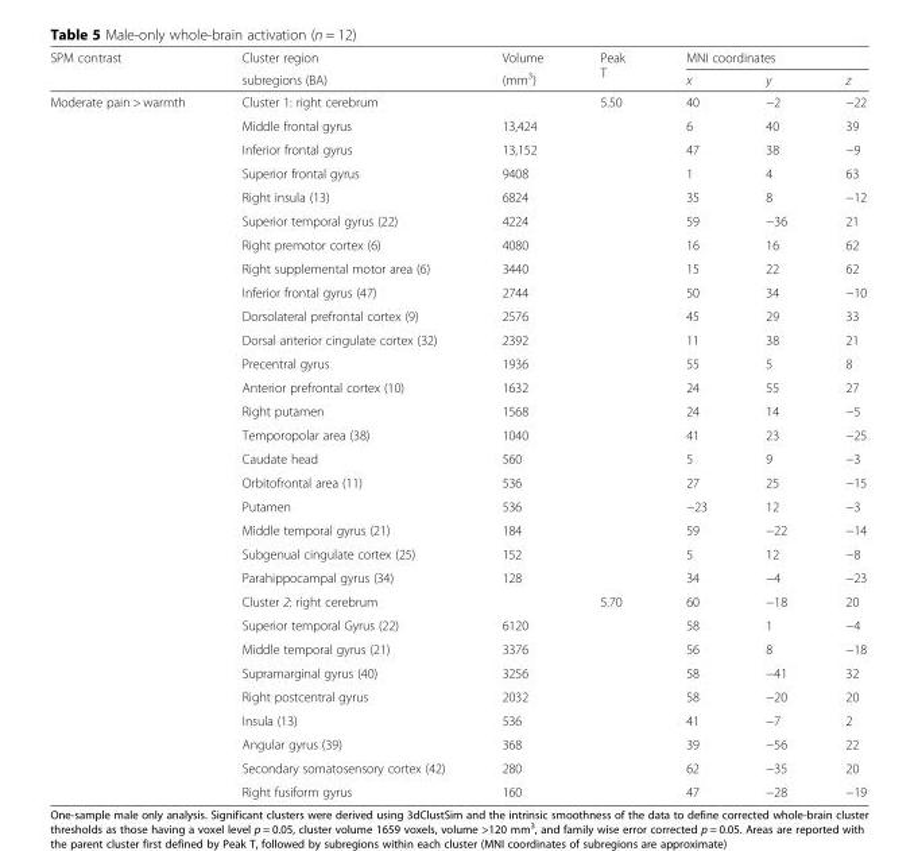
<table><thead><tr><td rowspan="2">SPM contrast</td><td rowspan="2">Cluster region subregions (BA)</td><td rowspan="2">Volume (mm<sup>3</sup>)</td><td rowspan="2">Peak T</td><td colspan="3">MNI coordinates</td></tr><tr><td>x</td><td>y</td><td>z</td></tr></thead><tbody><tr><td rowspan="30">Moderate pain &gt; warmth</td><td>Cluster 1: right cerebrum</td><td></td><td>5.50</td><td>40</td><td>−2</td><td>−22</td></tr><tr><td>Middle frontal gyrus</td><td>13,424</td><td></td><td>6</td><td>40</td><td>39</td></tr><tr><td>Inferior frontal gyrus</td><td>13,152</td><td></td><td>47</td><td>38</td><td>−9</td></tr><tr><td>Superior frontal gyrus</td><td>9408</td><td></td><td>1</td><td>4</td><td>63</td></tr><tr><td>Right insula (13)</td><td>6824</td><td></td><td>35</td><td>8</td><td>−12</td></tr><tr><td>Superior temporal gyrus (22)</td><td>4224</td><td></td><td>59</td><td>−36</td><td>21</td></tr><tr><td>Right premotor cortex (6)</td><td>4080</td><td></td><td>16</td><td>16</td><td>62</td></tr><tr><td>Right supplemental motor area (6)</td><td>3440</td><td></td><td>15</td><td>22</td><td>62</td></tr><tr><td>Inferior frontal gyrus (47)</td><td>2744</td><td></td><td>50</td><td>34</td><td>−10</td></tr><tr><td>Dorsolateral prefrontal cortex (9)</td><td>2576</td><td></td><td>45</td><td>29</td><td>33</td></tr><tr><td>Dorsal anterior cingulate cortex (32)</td><td>2392</td><td></td><td>11</td><td>38</td><td>21</td></tr><tr><td>Precentral gyrus</td><td>1936</td><td></td><td>55</td><td>5</td><td>8</td></tr><tr><td>Anterior prefrontal cortex (10)</td><td>1632</td><td></td><td>24</td><td>55</td><td>27</td></tr><tr><td>Right putamen</td><td>1568</td><td></td><td>24</td><td>14</td><td>−5</td></tr><tr><td>Temporopolar area (38)</td><td>1040</td><td></td><td>41</td><td>23</td><td>−25</td></tr><tr><td>Caudate head</td><td>560</td><td></td><td>5</td><td>9</td><td>−3</td></tr><tr><td>Orbitofrontal area (11)</td><td>536</td><td></td><td>27</td><td>25</td><td>−15</td></tr><tr><td>Putamen</td><td>536</td><td></td><td>−23</td><td>12</td><td>−3</td></tr><tr><td>Middle temporal gyrus (21)</td><td>184</td><td></td><td>59</td><td>−22</td><td>−14</td></tr><tr><td>Subgenual cingulate cortex (25)</td><td>152</td><td></td><td>5</td><td>12</td><td>−8</td></tr><tr><td>Parahippocampal gyrus (34)</td><td>128</td><td></td><td>34</td><td>−4</td><td>−23</td></tr><tr><td>Cluster 2: right cerebrum</td><td></td><td>5.70</td><td>60</td><td>−18</td><td>20</td></tr><tr><td>Superior temporal Gyrus (22)</td><td>6120</td><td></td><td>58</td><td>1</td><td>−4</td></tr><tr><td>Middle temporal gyrus (21)</td><td>3376</td><td></td><td>56</td><td>8</td><td>−18</td></tr><tr><td>Supramarginal gyrus (40)</td><td>3256</td><td></td><td>58</td><td>−41</td><td>32</td></tr><tr><td>Right postcentral gyrus</td><td>2032</td><td></td><td>58</td><td>−20</td><td>20</td></tr><tr><td>Insula (13)</td><td>536</td><td></td><td>41</td><td>−7</td><td>2</td></tr><tr><td>Angular gyrus (39)</td><td>368</td><td></td><td>39</td><td>−56</td><td>22</td></tr><tr><td>Secondary somatosensory cortex (42)</td><td>280</td><td></td><td>62</td><td>−35</td><td>20</td></tr><tr><td>Right fusiform gyrus</td><td>160</td><td></td><td>47</td><td>−28</td><td>−19</td></tr></tbody></table>